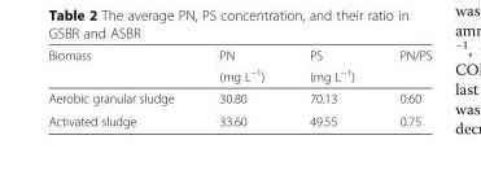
<table><thead><tr><td rowspan="2">Biomass</td><td rowspan="2">PN (mg L<sup>−1</sup>)</td><td rowspan="2">PS (mg L<sup>−1</sup>)</td><td rowspan="2">PN/PS</td></tr><tr></tr></thead><tbody><tr><td>Aerobic granular sludge</td><td>30.80</td><td>70.13</td><td>0.60</td></tr><tr><td>Activated sludge</td><td>33.60</td><td>49.55</td><td>0.75</td></tr></tbody></table>